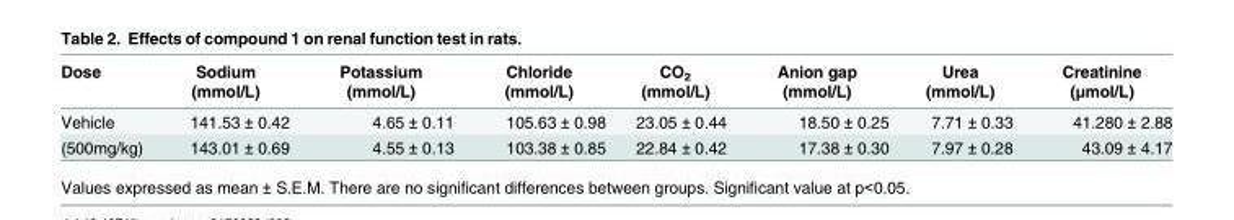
<table><thead><tr><td>Dose</td><td>Sodium (mmol/L)</td><td>Potassium (mmol/L)</td><td>Chloride (mmol/L)</td><td>CO2 (mmol/L)</td><td>Anion gap (mmol/L)</td><td>Urea (mmol/L)</td><td>Creatinine (μmol/L)</td></tr></thead><tbody><tr><td>Vehicle</td><td>141.53 ± 0.42</td><td>4.65 ± 0.11</td><td>105.63 ± 0.98</td><td>23.05 ± 0.44</td><td>18.50 ± 0.25</td><td>7.71 ± 0.33</td><td>41.280 ± 2.88</td></tr><tr><td>(500mg/kg)</td><td>143.01 ± 0.69</td><td>4.55 ± 0.13</td><td>103.38 ± 0.85</td><td>22.84 ± 0.42</td><td>17.38 ± 0.30</td><td>7.97 ± 0.28</td><td>43.09 ± 4.17</td></tr></tbody></table>